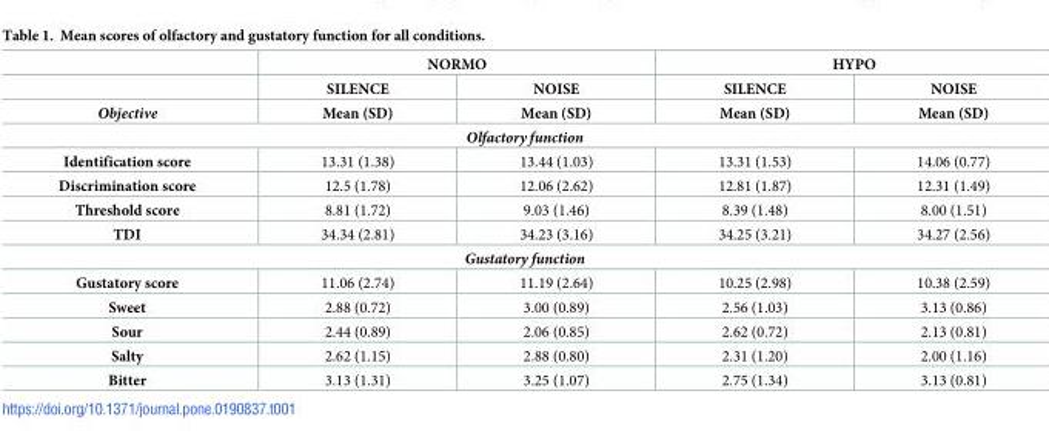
<table><thead><tr><td rowspan="3">Objective</td><td colspan="2">NORMO</td><td colspan="2">HYPO</td></tr><tr><td rowspan="2">SILENCE Mean (SD)</td><td rowspan="2">NOISE Mean (SD)</td><td rowspan="2">SILENCE Mean (SD)</td><td rowspan="2">NOISE Mean (SD)</td></tr><tr></tr></thead><tbody><tr><td colspan="5">Olfactory function</td></tr><tr><td>Identification score</td><td>13.31 (1.38)</td><td>13.44 (1.03)</td><td>13.31 (1.53)</td><td>14.06 (0.77)</td></tr><tr><td>Discrimination score</td><td>12.5 (1.78)</td><td>12.06 (2.62)</td><td>12.81 (1.87)</td><td>12.31 (1.49)</td></tr><tr><td>Threshold score</td><td>8.81 (1.72)</td><td>9.03 (1.46)</td><td>8.39 (1.48)</td><td>8.00 (1.51)</td></tr><tr><td>TDI</td><td>34.34 (2.81)</td><td>34.23 (3.16)</td><td>34.25 (3.21)</td><td>34.27 (2.56)</td></tr><tr><td colspan="5">Gustatory function</td></tr><tr><td>Gustatory score</td><td>11.06 (2.74)</td><td>11.19 (2.64)</td><td>10.25 (2.98)</td><td>10.38 (2.59)</td></tr><tr><td>Sweet</td><td>2.88 (0.72)</td><td>3.00 (0.89)</td><td>2.56 (1.03)</td><td>3.13 (0.86)</td></tr><tr><td>Sour</td><td>2.44 (0.89)</td><td>2.06 (0.85)</td><td>2.62 (0.72)</td><td>2.13 (0.81)</td></tr><tr><td>Salty</td><td>2.62 (1.15)</td><td>2.88 (0.80)</td><td>2.31 (1.20)</td><td>2.00 (1.16)</td></tr><tr><td>Bitter</td><td>3.13 (1.31)</td><td>3.25 (1.07)</td><td>2.75 (1.34)</td><td>3.13 (0.81)</td></tr></tbody></table>